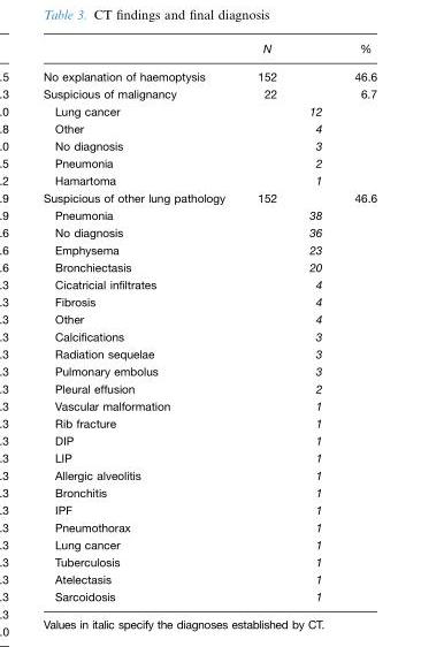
<table><thead><tr><td></td><td>N</td><td></td><td>%</td></tr></thead><tbody><tr><td>No explanation of haemoptysis</td><td>152</td><td></td><td>46.6</td></tr><tr><td>Suspicious of malignancy</td><td>22</td><td></td><td>6.7</td></tr><tr><td>Lung cancer</td><td></td><td>12</td><td></td></tr><tr><td>Other</td><td></td><td>4</td><td></td></tr><tr><td>No diagnosis</td><td></td><td>3</td><td></td></tr><tr><td>Pneumonia</td><td></td><td>2</td><td></td></tr><tr><td>Hamartoma</td><td></td><td>1</td><td></td></tr><tr><td>Suspicious of other lung pathology</td><td>152</td><td></td><td>46.6</td></tr><tr><td>Pneumonia</td><td></td><td>38</td><td></td></tr><tr><td>No diagnosis</td><td></td><td>36</td><td></td></tr><tr><td>Emphysema</td><td></td><td>23</td><td></td></tr><tr><td>Bronchiectasis</td><td></td><td>20</td><td></td></tr><tr><td>Cicatricial infiltrates</td><td></td><td>4</td><td></td></tr><tr><td>Fibrosis</td><td></td><td>4</td><td></td></tr><tr><td>Other</td><td></td><td>4</td><td></td></tr><tr><td>Calcifications</td><td></td><td>3</td><td></td></tr><tr><td>Radiation sequelae</td><td></td><td>3</td><td></td></tr><tr><td>Pulmonary embolus</td><td></td><td>3</td><td></td></tr><tr><td>Pleural effusion</td><td></td><td>2</td><td></td></tr><tr><td>Vascular malformation</td><td></td><td>1</td><td></td></tr><tr><td>Rib fracture</td><td></td><td>1</td><td></td></tr><tr><td>DIP</td><td></td><td>1</td><td></td></tr><tr><td>LIP</td><td></td><td>1</td><td></td></tr><tr><td>Allergic alveolitis</td><td></td><td>1</td><td></td></tr><tr><td>Bronchitis</td><td></td><td>1</td><td></td></tr><tr><td>IPF</td><td></td><td>1</td><td></td></tr><tr><td>Pneumothorax</td><td></td><td>1</td><td></td></tr><tr><td>Lung cancer</td><td></td><td>1</td><td></td></tr><tr><td>Tuberculosis</td><td></td><td>1</td><td></td></tr><tr><td>Atelectasis</td><td></td><td>1</td><td></td></tr><tr><td>Sarcoidosis</td><td></td><td>1</td><td></td></tr></tbody></table>